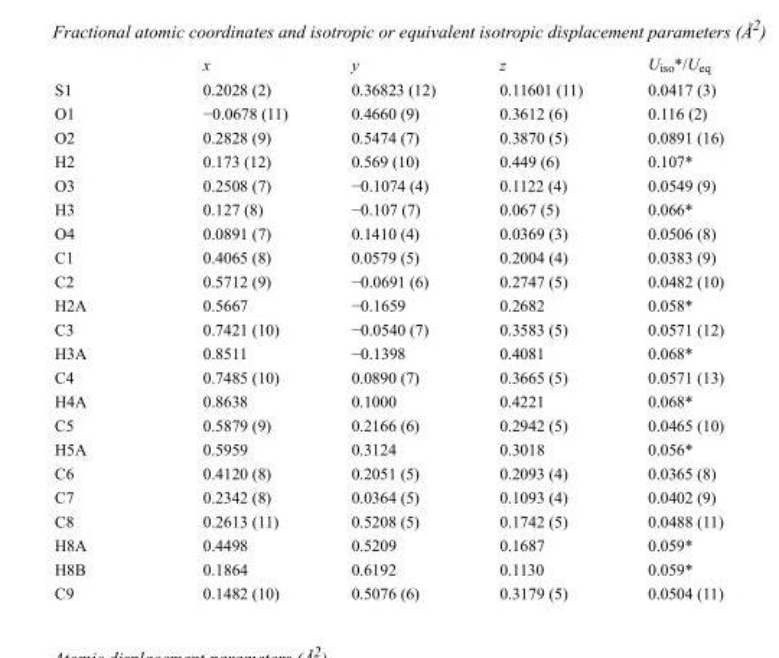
<table><thead><tr><td></td><td>x</td><td>y</td><td>z</td><td>U<sub>iso</sub>*/U<sub>eq</sub></td></tr></thead><tbody><tr><td>S1</td><td>0.2028 (2)</td><td>0.36823 (12)</td><td>0.11601 (11)</td><td>0.0417 (3)</td></tr><tr><td>O1</td><td>−0.0678 (11)</td><td>0.4660 (9)</td><td>0.3612 (6)</td><td>0.116 (2)</td></tr><tr><td>O2</td><td>0.2828 (9)</td><td>0.5474 (7)</td><td>0.3870 (5)</td><td>0.0891 (16)</td></tr><tr><td>H2</td><td>0.173 (12)</td><td>0.569 (10)</td><td>0.449 (6)</td><td>0.107*</td></tr><tr><td>O3</td><td>0.2508 (7)</td><td>−0.1074 (4)</td><td>0.1122 (4)</td><td>0.0549 (9)</td></tr><tr><td>H3</td><td>0.127 (8)</td><td>−0.107 (7)</td><td>0.067 (5)</td><td>0.066*</td></tr><tr><td>O4</td><td>0.0891 (7)</td><td>0.1410 (4)</td><td>0.0369 (3)</td><td>0.0506 (8)</td></tr><tr><td>C1</td><td>0.4065 (8)</td><td>0.0579 (5)</td><td>0.2004 (4)</td><td>0.0383 (9)</td></tr><tr><td>C2</td><td>0.5712 (9)</td><td>−0.0691 (6)</td><td>0.2747 (5)</td><td>0.0482 (10)</td></tr><tr><td>H2A</td><td>0.5667</td><td>−0.1659</td><td>0.2682</td><td>0.058*</td></tr><tr><td>C3</td><td>0.7421 (10)</td><td>−0.0540 (7)</td><td>0.3583 (5)</td><td>0.0571 (12)</td></tr><tr><td>H3A</td><td>0.8511</td><td>−0.1398</td><td>0.4081</td><td>0.068*</td></tr><tr><td>C4</td><td>0.7485 (10)</td><td>0.0890 (7)</td><td>0.3665 (5)</td><td>0.0571 (13)</td></tr><tr><td>H4A</td><td>0.8638</td><td>0.1000</td><td>0.4221</td><td>0.068*</td></tr><tr><td>C5</td><td>0.5879 (9)</td><td>0.2166 (6)</td><td>0.2942 (5)</td><td>0.0465 (10)</td></tr><tr><td>H5A</td><td>0.5959</td><td>0.3124</td><td>0.3018</td><td>0.056*</td></tr><tr><td>C6</td><td>0.4120 (8)</td><td>0.2051 (5)</td><td>0.2093 (4)</td><td>0.0365 (8)</td></tr><tr><td>C7</td><td>0.2342 (8)</td><td>0.0364 (5)</td><td>0.1093 (4)</td><td>0.0402 (9)</td></tr><tr><td>C8</td><td>0.2613 (11)</td><td>0.5208 (5)</td><td>0.1742 (5)</td><td>0.0488 (11)</td></tr><tr><td>H8A</td><td>0.4498</td><td>0.5209</td><td>0.1687</td><td>0.059*</td></tr><tr><td>H8B</td><td>0.1864</td><td>0.6192</td><td>0.1130</td><td>0.059*</td></tr><tr><td>C9</td><td>0.1482 (10)</td><td>0.5076 (6)</td><td>0.3179 (5)</td><td>0.0504 (11)</td></tr></tbody></table>